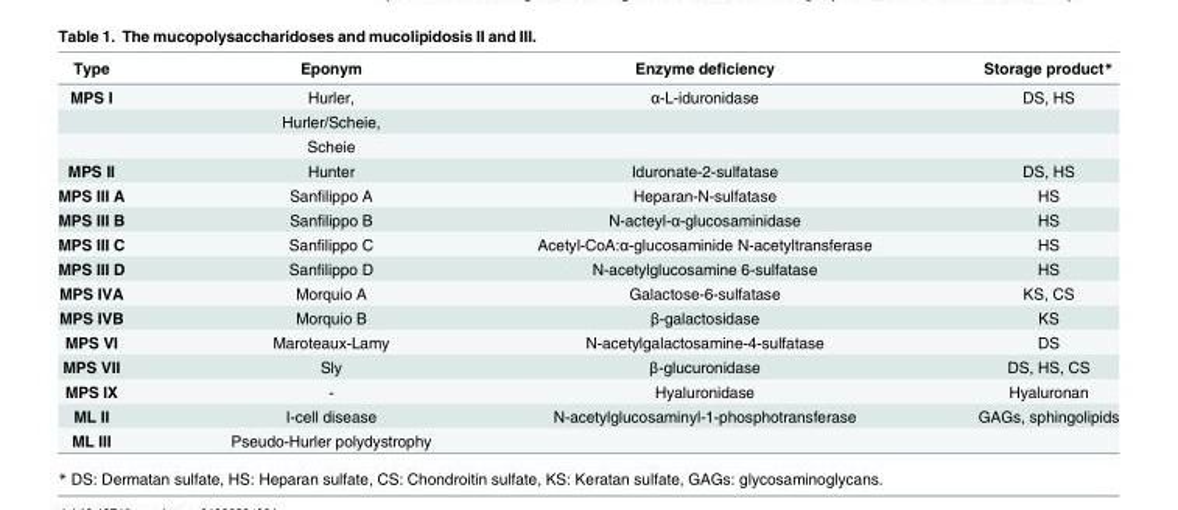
<table><thead><tr><td>Type</td><td>Eponym</td><td>Enzyme deficiency</td><td>Storage product*</td></tr></thead><tbody><tr><td rowspan="3">MPS I</td><td>Hurler,</td><td>α-L-iduronidase</td><td>DS, HS</td></tr><tr><td>Hurler/Scheie,</td><td></td><td></td></tr><tr><td>Scheie</td><td></td><td></td></tr><tr><td>MPS II</td><td>Hunter</td><td>Iduronate-2-sulfatase</td><td>DS, HS</td></tr><tr><td>MPS III A</td><td>Sanfilippo A</td><td>Heparan-N-sulfatase</td><td>HS</td></tr><tr><td>MPS III B</td><td>Sanfilippo B</td><td>N-acteyl-α-glucosaminidase</td><td>HS</td></tr><tr><td>MPS III C</td><td>Sanfilippo C</td><td>Acetyl-CoA:α-glucosaminide N-acetyltransferase</td><td>HS</td></tr><tr><td>MPS III D</td><td>Sanfilippo D</td><td>N-acetylglucosamine 6-sulfatase</td><td>HS</td></tr><tr><td>MPS IVA</td><td>Morquio A</td><td>Galactose-6-sulfatase</td><td>KS, CS</td></tr><tr><td>MPS IVB</td><td>Morquio B</td><td>β-galactosidase</td><td>KS</td></tr><tr><td>MPS VI</td><td>Maroteaux-Lamy</td><td>N-acetylgalactosamine-4-sulfatase</td><td>DS</td></tr><tr><td>MPS VII</td><td>Sly</td><td>β-glucuronidase</td><td>DS, HS, CS</td></tr><tr><td>MPS IX</td><td>-</td><td>Hyaluronidase</td><td>Hyaluronan</td></tr><tr><td>ML II</td><td>I-cell disease</td><td>N-acetylglucosaminyl-1-phosphotransferase</td><td>GAGs, sphingolipids</td></tr><tr><td>ML III</td><td>Pseudo-Hurler polydystrophy</td><td></td><td></td></tr></tbody></table>